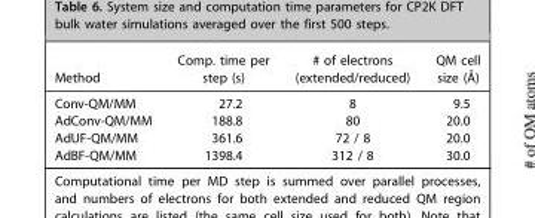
<table><thead><tr><td>Method</td><td>Comp. time per step (s)</td><td># of electrons (extended/reduced)</td><td>QM cell size (A˚)</td></tr></thead><tbody><tr><td>Conv-QM/MM</td><td>27.2</td><td>8</td><td>9.5</td></tr><tr><td>AdConv-QM/MM</td><td>188.8</td><td>80</td><td>20.0</td></tr><tr><td>AdUF-QM/MM</td><td>361.6</td><td>72 / 8</td><td>20.0</td></tr><tr><td>AdBF-QM/MM</td><td>1398.4</td><td>312 / 8</td><td>30.0</td></tr></tbody></table>